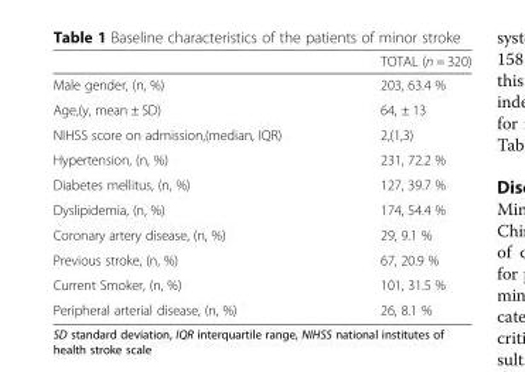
<table><thead><tr><td></td><td>TOTAL (n = 320)</td></tr></thead><tbody><tr><td>Male gender, (n, %)</td><td>203, 63.4 %</td></tr><tr><td>Age,(y, mean ± SD)</td><td>64, ± 13</td></tr><tr><td>NIHSS score on admission,(median, IQR)</td><td>2,(1,3)</td></tr><tr><td>Hypertension, (n, %)</td><td>231, 72.2 %</td></tr><tr><td>Diabetes mellitus, (n, %)</td><td>127, 39.7 %</td></tr><tr><td>Dyslipidemia, (n, %)</td><td>174, 54.4 %</td></tr><tr><td>Coronary artery disease, (n, %)</td><td>29, 9.1 %</td></tr><tr><td>Previous stroke, (n, %)</td><td>67, 20.9 %</td></tr><tr><td>Current Smoker, (n, %)</td><td>101, 31.5 %</td></tr><tr><td>Peripheral arterial disease, (n, %)</td><td>26, 8.1 %</td></tr></tbody></table>